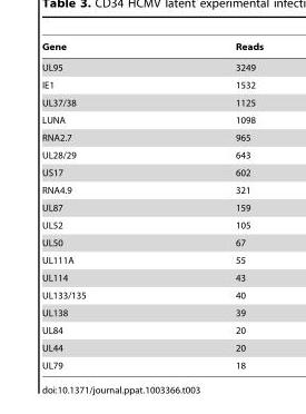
<table><thead><tr><td>Gene</td><td>Reads</td></tr></thead><tbody><tr><td>UL95</td><td>3249</td></tr><tr><td>IE1</td><td>1532</td></tr><tr><td>UL37/38</td><td>1125</td></tr><tr><td>LUNA</td><td>1098</td></tr><tr><td>RNA2.7</td><td>965</td></tr><tr><td>UL28/29</td><td>643</td></tr><tr><td>US17</td><td>602</td></tr><tr><td>RNA4.9</td><td>321</td></tr><tr><td>UL87</td><td>159</td></tr><tr><td>UL52</td><td>105</td></tr><tr><td>UL50</td><td>67</td></tr><tr><td>UL111A</td><td>55</td></tr><tr><td>UL114</td><td>43</td></tr><tr><td>UL133/135</td><td>40</td></tr><tr><td>UL138</td><td>39</td></tr><tr><td>UL84</td><td>20</td></tr><tr><td>UL44</td><td>20</td></tr><tr><td>UL79</td><td>18</td></tr></tbody></table>